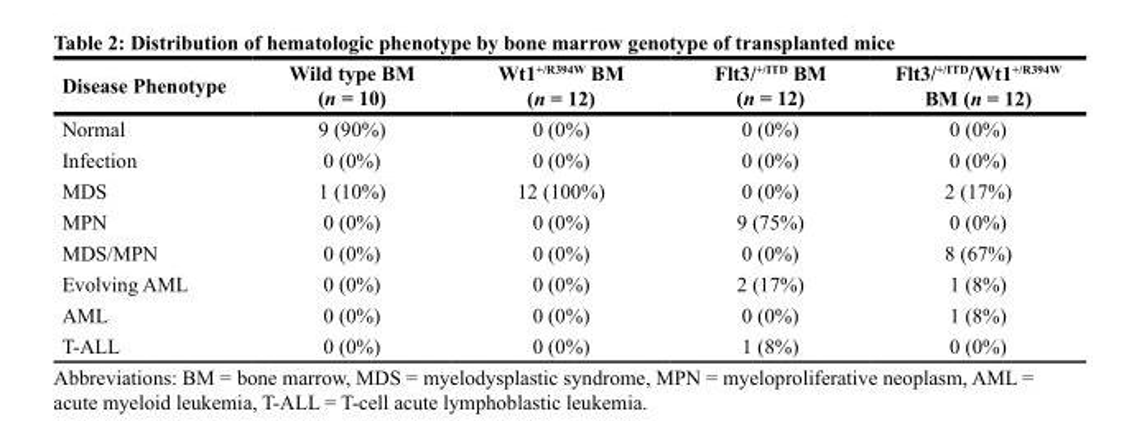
<table><thead><tr><td>Disease Phenotype</td><td>Wild type BM (n = 10)</td><td>Wt1<sup>+/R394W</sup> BM (n = 12)</td><td>Flt3/<sup>+/ITD</sup> BM (n = 12)</td><td>Flt3/<sup>+/ITD</sup>/Wt1<sup>+/R394W</sup> BM (n = 12)</td></tr></thead><tbody><tr><td>Normal</td><td>9 (90%)</td><td>0 (0%)</td><td>0 (0%)</td><td>0 (0%)</td></tr><tr><td>Infection</td><td>0 (0%)</td><td>0 (0%)</td><td>0 (0%)</td><td>0 (0%)</td></tr><tr><td>MDS</td><td>1 (10%)</td><td>12 (100%)</td><td>0 (0%)</td><td>2 (17%)</td></tr><tr><td>MPN</td><td>0 (0%)</td><td>0 (0%)</td><td>9 (75%)</td><td>0 (0%)</td></tr><tr><td>MDS/MPN</td><td>0 (0%)</td><td>0 (0%)</td><td>0 (0%)</td><td>8 (67%)</td></tr><tr><td>Evolving AML</td><td>0 (0%)</td><td>0 (0%)</td><td>2 (17%)</td><td>1 (8%)</td></tr><tr><td>AML</td><td>0 (0%)</td><td>0 (0%)</td><td>0 (0%)</td><td>1 (8%)</td></tr><tr><td>T-ALL</td><td>0 (0%)</td><td>0 (0%)</td><td>1 (8%)</td><td>0 (0%)</td></tr></tbody></table>